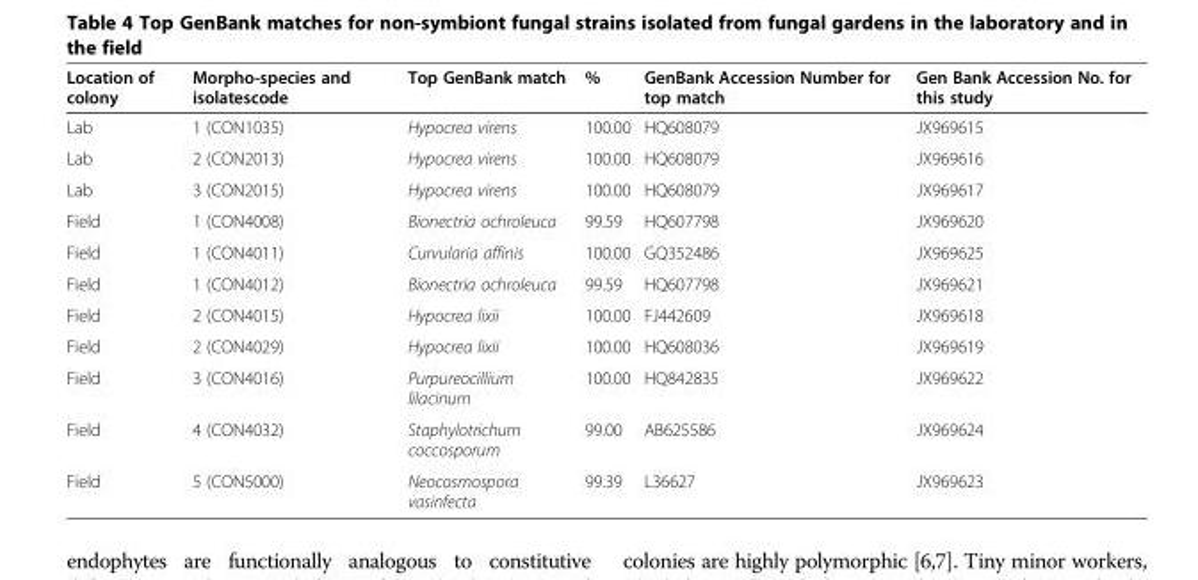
<table><thead><tr><td>Location of colony</td><td>Morpho-species and isolatescode</td><td>Top GenBank match</td><td>%</td><td>GenBank Accession Number for top match</td><td>Gen Bank Accession No. for this study</td></tr></thead><tbody><tr><td>Lab</td><td>1 (CON1035)</td><td>Hypocrea virens</td><td>100.00</td><td>HQ608079</td><td>JX969615</td></tr><tr><td>Lab</td><td>2 (CON2013)</td><td>Hypocrea virens</td><td>100.00</td><td>HQ608079</td><td>JX969616</td></tr><tr><td>Lab</td><td>3 (CON2015)</td><td>Hypocrea virens</td><td>100.00</td><td>HQ608079</td><td>JX969617</td></tr><tr><td>Field</td><td>1 (CON4008)</td><td>Bionectria ochroleuca</td><td>99.59</td><td>HQ607798</td><td>JX969620</td></tr><tr><td>Field</td><td>1 (CON4011)</td><td>Curvularia affinis</td><td>100.00</td><td>GQ352486</td><td>JX969625</td></tr><tr><td>Field</td><td>1 (CON4012)</td><td>Bionectria ochroleuca</td><td>99.59</td><td>HQ607798</td><td>JX969621</td></tr><tr><td>Field</td><td>2 (CON4015)</td><td>Hypocrea lixii</td><td>100.00</td><td>FJ442609</td><td>JX969618</td></tr><tr><td>Field</td><td>2 (CON4029)</td><td>Hypocrea lixii</td><td>100.00</td><td>HQ608036</td><td>JX969619</td></tr><tr><td>Field</td><td>3 (CON4016)</td><td>Purpureocillium lilacinum</td><td>100.00</td><td>HQ842835</td><td>JX969622</td></tr><tr><td>Field</td><td>4 (CON4032)</td><td>Staphylotrichum coccosporum</td><td>99.00</td><td>AB625586</td><td>JX969624</td></tr><tr><td>Field</td><td>5 (CON5000)</td><td>Neocosmospora vasinfecta</td><td>99.39</td><td>L36627</td><td>JX969623</td></tr></tbody></table>